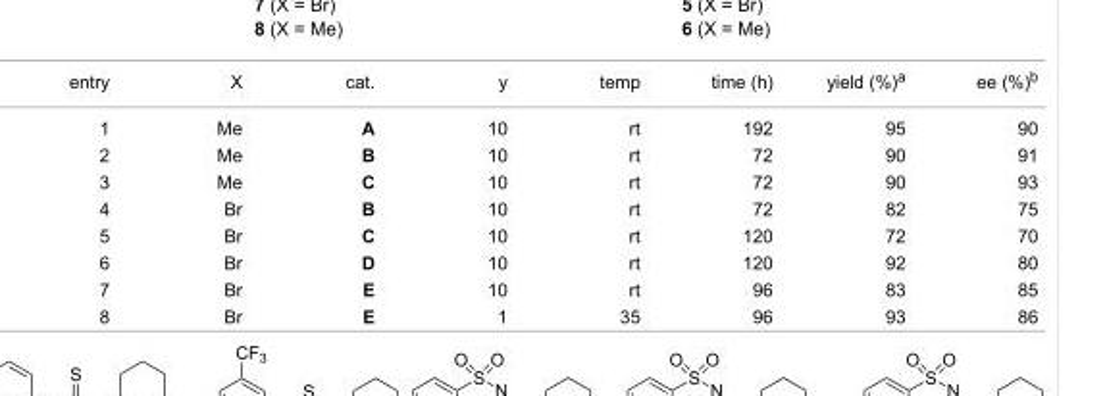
<table><tbody><tr><td>entry</td><td>X</td><td>cat.</td><td>y</td><td>temp</td><td>time (h)</td><td>yield (%)<sup>a</sup></td><td>ee (%)<sup>b</sup></td></tr><tr><td>1</td><td>Me</td><td>A</td><td>10</td><td>rt</td><td>192</td><td>95</td><td>90</td></tr><tr><td>2</td><td>Me</td><td>B</td><td>10</td><td>rt</td><td>72</td><td>90</td><td>91</td></tr><tr><td>3</td><td>Me</td><td>C</td><td>10</td><td>rt</td><td>72</td><td>90</td><td>93</td></tr><tr><td>4</td><td>Br</td><td>B</td><td>10</td><td>rt</td><td>72</td><td>82</td><td>75</td></tr><tr><td>5</td><td>Br</td><td>C</td><td>10</td><td>rt</td><td>120</td><td>72</td><td>70</td></tr><tr><td>6</td><td>Br</td><td>D</td><td>10</td><td>rt</td><td>120</td><td>92</td><td>80</td></tr><tr><td>7</td><td>Br</td><td>E</td><td>10</td><td>rt</td><td>96</td><td>83</td><td>85</td></tr><tr><td>8</td><td>Br</td><td>E</td><td>1</td><td>35</td><td>96</td><td>93</td><td>86</td></tr></tbody></table>